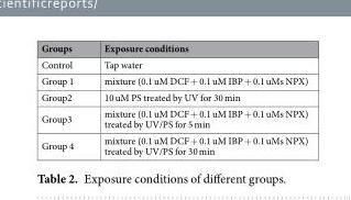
<table><thead><tr><td>Groups</td><td>Exposure conditions</td></tr></thead><tbody><tr><td>Control</td><td>Tap water</td></tr><tr><td>Group 1</td><td>mixture (0.1 uM DCF + 0.1 uM IBP + 0.1 uMs NPX)</td></tr><tr><td>Group2</td><td>10 uM PS treated by UV for 30 min</td></tr><tr><td>Group3</td><td>mixture (0.1 uM DCF + 0.1 uM IBP + 0.1 uMs NPX) treated by UV/PS for 5 min</td></tr><tr><td>Group 4</td><td>mixture (0.1 uM DCF + 0.1 uM IBP + 0.1 uMs NPX) treated by UV/PS for 30 min</td></tr></tbody></table>